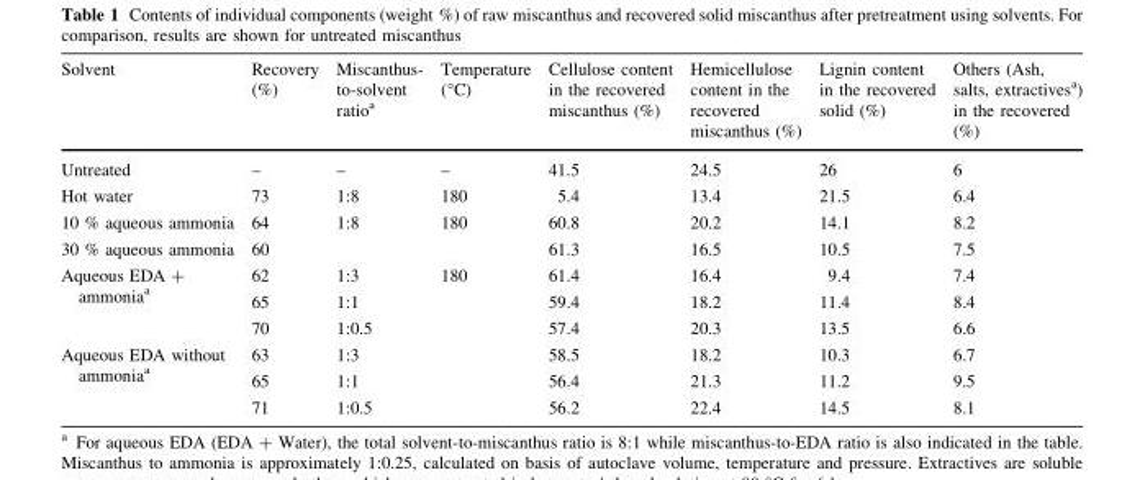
<table><thead><tr><td>Solvent</td><td>Recovery (%)</td><td>Miscanthus- to-solvent ratio<sup>a</sup></td><td>Temperature (°C)</td><td>Cellulose content in the recovered miscanthus (%)</td><td>Hemicellulose content in the recovered miscanthus (%)</td><td>Lignin content in the recovered solid (%)</td><td>Others (Ash, salts, extractives<sup>a</sup>) in the recovered (%)</td></tr></thead><tbody><tr><td>Untreated</td><td>–</td><td>–</td><td>–</td><td>41.5</td><td>24.5</td><td>26</td><td>6</td></tr><tr><td>Hot water</td><td>73</td><td>1:8</td><td>180</td><td>5.4</td><td>13.4</td><td>21.5</td><td>6.4</td></tr><tr><td>10 % aqueous ammonia</td><td>64</td><td>1:8</td><td rowspan="2">180</td><td>60.8</td><td>20.2</td><td>14.1</td><td>8.2</td></tr><tr><td>30 % aqueous ammonia</td><td>60</td><td></td><td>61.3</td><td>16.5</td><td>10.5</td><td>7.5</td></tr><tr><td rowspan="3">Aqueous EDA + ammonia<sup>a</sup></td><td>62</td><td>1:3</td><td rowspan="6">180</td><td>61.4</td><td>16.4</td><td>9.4</td><td>7.4</td></tr><tr><td>65</td><td>1:1</td><td>59.4</td><td>18.2</td><td>11.4</td><td>8.4</td></tr><tr><td>70</td><td>1:0.5</td><td>57.4</td><td>20.3</td><td>13.5</td><td>6.6</td></tr><tr><td rowspan="3">Aqueous EDA without ammonia<sup>a</sup></td><td>63</td><td>1:3</td><td>58.5</td><td>18.2</td><td>10.3</td><td>6.7</td></tr><tr><td>65</td><td>1:1</td><td>56.4</td><td>21.3</td><td>11.2</td><td>9.5</td></tr><tr><td>71</td><td>1:0.5</td><td>56.2</td><td>22.4</td><td>14.5</td><td>8.1</td></tr></tbody></table>